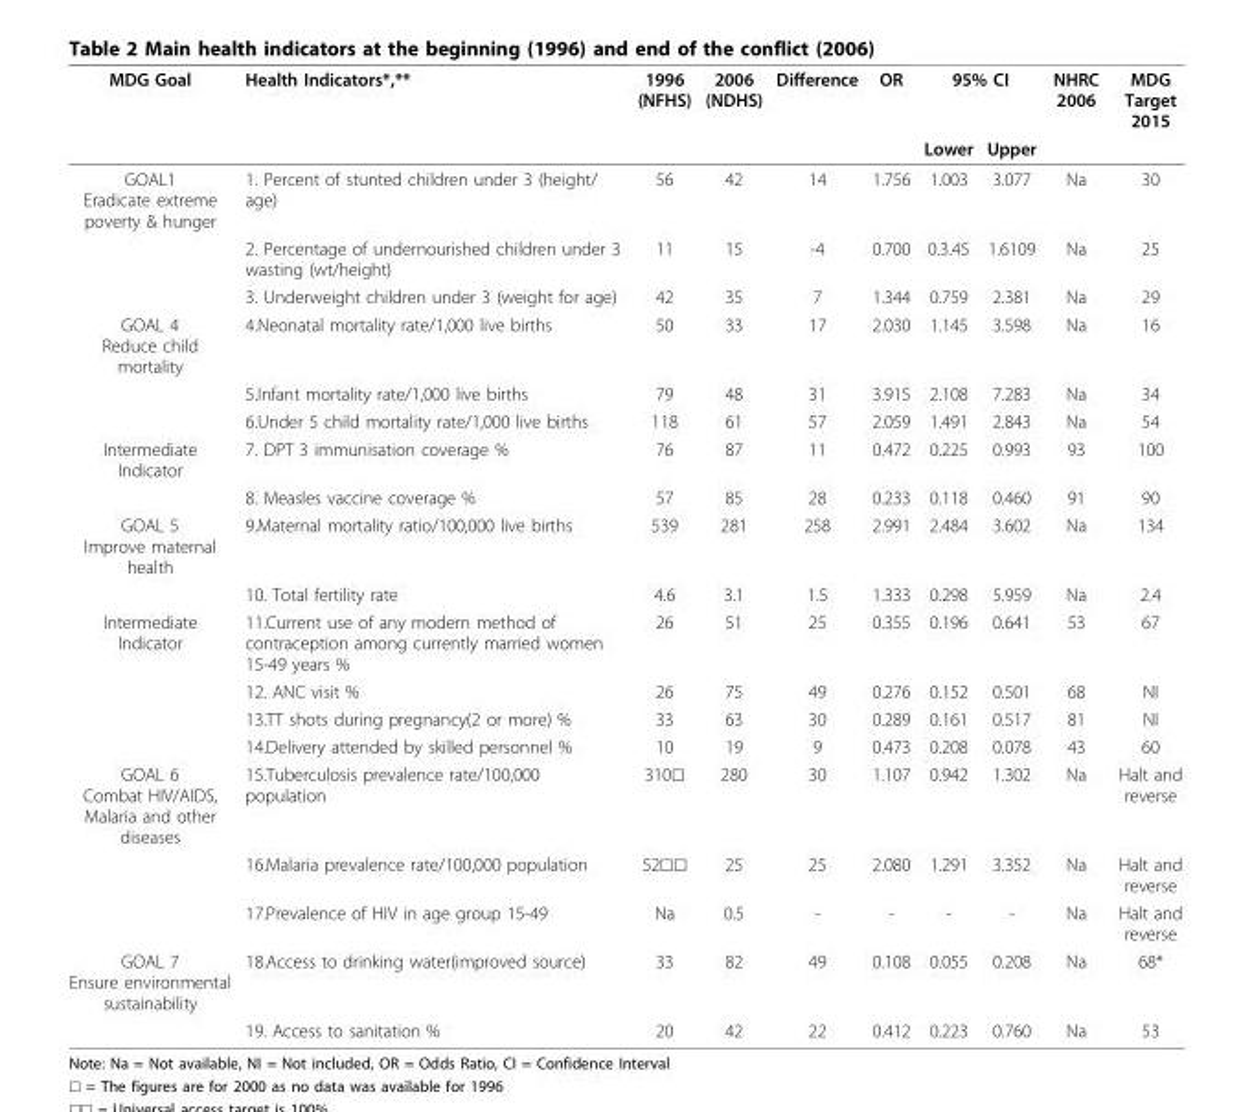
<table><thead><tr><td rowspan="2">MDG Goal</td><td rowspan="2">Health Indicators*,**</td><td rowspan="2">1996 (NFHS)</td><td rowspan="2">2006 (NDHS)</td><td rowspan="2">Difference</td><td rowspan="2">OR</td><td colspan="2">95% CI</td><td rowspan="2">NHRC 2006</td><td rowspan="2">MDG Target 2015</td></tr><tr><td>Lower</td><td>Upper</td></tr></thead><tbody><tr><td rowspan="3">GOAL1 Eradicate extreme poverty &amp; hunger</td><td>1. Percent of stunted children under 3 (height/ age)</td><td>56</td><td>42</td><td>14</td><td>1.756</td><td>1.003</td><td>3.077</td><td>Na</td><td>30</td></tr><tr><td>2. Percentage of undernourished children under 3 wasting (wt/height)</td><td>11</td><td>15</td><td>-4</td><td>0.700</td><td>0.3.45</td><td>1.6109</td><td>Na</td><td>25</td></tr><tr><td>3. Underweight children under 3 (weight for age)</td><td>42</td><td>35</td><td>7</td><td>1.344</td><td>0.759</td><td>2.381</td><td>Na</td><td>29</td></tr><tr><td rowspan="3">GOAL 4 Reduce child mortality</td><td>4.Neonatal mortality rate/1,000 live births</td><td>50</td><td>33</td><td>17</td><td>2.030</td><td>1.145</td><td>3.598</td><td>Na</td><td>16</td></tr><tr><td>5.Infant mortality rate/1,000 live births</td><td>79</td><td>48</td><td>31</td><td>3.915</td><td>2.108</td><td>7.283</td><td>Na</td><td>34</td></tr><tr><td>6.Under 5 child mortality rate/1,000 live births</td><td>118</td><td>61</td><td>57</td><td>2.059</td><td>1.491</td><td>2.843</td><td>Na</td><td>54</td></tr><tr><td rowspan="2">Intermediate Indicator</td><td>7. DPT 3 immunisation coverage %</td><td>76</td><td>87</td><td>11</td><td>0.472</td><td>0.225</td><td>0.993</td><td>93</td><td>100</td></tr><tr><td>8. Measles vaccine coverage %</td><td>57</td><td>85</td><td>28</td><td>0.233</td><td>0.118</td><td>0.460</td><td>91</td><td>90</td></tr><tr><td rowspan="2">GOAL 5 Improve maternal health</td><td>9.Maternal mortality ratio/100,000 live births</td><td>539</td><td>281</td><td>258</td><td>2.991</td><td>2.484</td><td>3.602</td><td>Na</td><td>134</td></tr><tr><td>10. Total fertility rate</td><td>4.6</td><td>3.1</td><td>1.5</td><td>1.333</td><td>0.298</td><td>5.959</td><td>Na</td><td>2.4</td></tr><tr><td rowspan="4">Intermediate Indicator</td><td>11.Current use of any modern method of contraception among currently married women 15-49 years %</td><td>26</td><td>51</td><td>25</td><td>0.355</td><td>0.196</td><td>0.641</td><td>53</td><td>67</td></tr><tr><td>12. ANC visit %</td><td>26</td><td>75</td><td>49</td><td>0.276</td><td>0.152</td><td>0.501</td><td>68</td><td>NI</td></tr><tr><td>13.TT shots during pregnancy(2 or more) %</td><td>33</td><td>63</td><td>30</td><td>0.289</td><td>0.161</td><td>0.517</td><td>81</td><td>NI</td></tr><tr><td>14.Delivery attended by skilled personnel %</td><td>10</td><td>19</td><td>9</td><td>0.473</td><td>0.208</td><td>0.078</td><td>43</td><td>60</td></tr><tr><td rowspan="3">GOAL 6 Combat HIV/AIDS, Malaria and other diseases</td><td>15.Tuberculosis prevalence rate/100,000 population</td><td>310☐</td><td>280</td><td>30</td><td>1.107</td><td>0.942</td><td>1.302</td><td>Na</td><td>Halt and reverse</td></tr><tr><td>16.Malaria prevalence rate/100,000 population</td><td>52☐☐</td><td>25</td><td>25</td><td>2.080</td><td>1.291</td><td>3.352</td><td>Na</td><td>Halt and reverse</td></tr><tr><td>17.Prevalence of HIV in age group 15-49</td><td>Na</td><td>0.5</td><td>-</td><td>-</td><td>-</td><td>-</td><td>Na</td><td>Halt and reverse</td></tr><tr><td rowspan="2">GOAL 7 Ensure environmental sustainability</td><td>18.Access to drinking water(improved source)</td><td>33</td><td>82</td><td>49</td><td>0.108</td><td>0.055</td><td>0.208</td><td>Na</td><td>68*</td></tr><tr><td>19. Access to sanitation %</td><td>20</td><td>42</td><td>22</td><td>0.412</td><td>0.223</td><td>0.760</td><td>Na</td><td>53</td></tr></tbody></table>